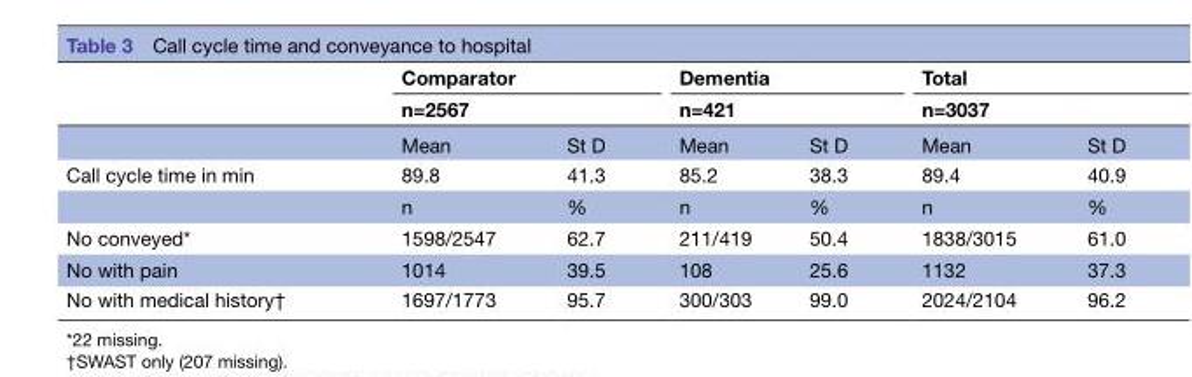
<table><thead><tr><td rowspan="3"></td><td rowspan="2" colspan="2">Comparator n=2567</td><td rowspan="2" colspan="2">Dementia n=421</td><td rowspan="2" colspan="2">Total n=3037</td></tr><tr></tr><tr><td>Mean</td><td>St D</td><td>Mean</td><td>St D</td><td>Mean</td><td>St D</td></tr></thead><tbody><tr><td rowspan="2">Call cycle time in min</td><td>89.8</td><td>41.3</td><td>85.2</td><td>38.3</td><td>89.4</td><td>40.9</td></tr><tr><td>n</td><td>%</td><td>n</td><td>%</td><td>n</td><td>%</td></tr><tr><td>No conveyed*</td><td>1598/2547</td><td>62.7</td><td>211/419</td><td>50.4</td><td>1838/3015</td><td>61.0</td></tr><tr><td>No with pain</td><td>1014</td><td>39.5</td><td>108</td><td>25.6</td><td>1132</td><td>37.3</td></tr><tr><td>No with medical history†</td><td>1697/1773</td><td>95.7</td><td>300/303</td><td>99.0</td><td>2024/2104</td><td>96.2</td></tr></tbody></table>